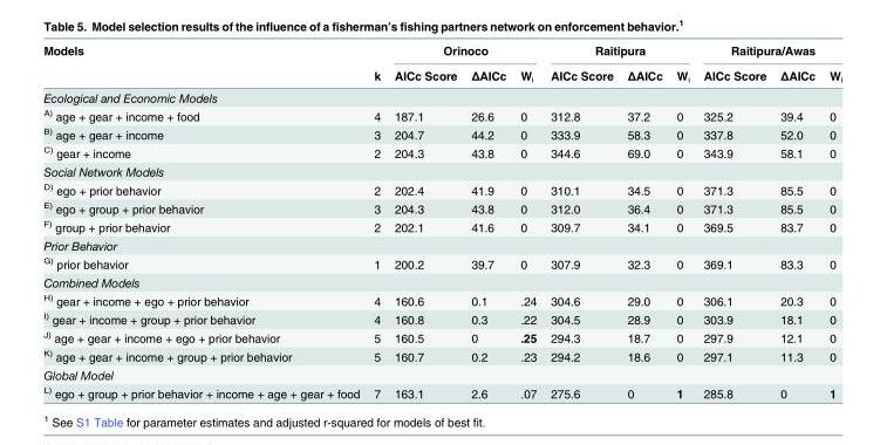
<table><thead><tr><td rowspan="2">Models</td><td rowspan="2">k</td><td colspan="3">Orinoco</td><td colspan="3">Raitipura</td><td colspan="3">Raitipura/Awas</td></tr><tr><td>AICc Score</td><td>ΔAICc</td><td>W<sub>i</sub></td><td>AICc Score</td><td>ΔAICc</td><td>W<sub>i</sub></td><td>AICc Score</td><td>ΔAICc</td><td>W<sub>i</sub></td></tr></thead><tbody><tr><td colspan="11">Ecological and Economic Models</td></tr><tr><td><sup>A)</sup> age + gear + income + food</td><td>4</td><td>187.1</td><td>26.6</td><td>0</td><td>312.8</td><td>37.2</td><td>0</td><td>325.2</td><td>39.4</td><td>0</td></tr><tr><td><sup>B)</sup> age + gear + income</td><td>3</td><td>204.7</td><td>44.2</td><td>0</td><td>333.9</td><td>58.3</td><td>0</td><td>337.8</td><td>52.0</td><td>0</td></tr><tr><td><sup>C)</sup> gear + income</td><td>2</td><td>204.3</td><td>43.8</td><td>0</td><td>344.6</td><td>69.0</td><td>0</td><td>343.9</td><td>58.1</td><td>0</td></tr><tr><td colspan="11">Social Network Models</td></tr><tr><td><sup>D)</sup> ego + prior behavior</td><td>2</td><td>202.4</td><td>41.9</td><td>0</td><td>310.1</td><td>34.5</td><td>0</td><td>371.3</td><td>85.5</td><td>0</td></tr><tr><td><sup>E)</sup> ego + group + prior behavior</td><td>3</td><td>204.3</td><td>43.8</td><td>0</td><td>312.0</td><td>36.4</td><td>0</td><td>371.3</td><td>85.5</td><td>0</td></tr><tr><td><sup>F)</sup> group + prior behavior</td><td>2</td><td>202.1</td><td>41.6</td><td>0</td><td>309.7</td><td>34.1</td><td>0</td><td>369.5</td><td>83.7</td><td>0</td></tr><tr><td colspan="11">Prior Behavior</td></tr><tr><td><sup>G)</sup> prior behavior</td><td>1</td><td>200.2</td><td>39.7</td><td>0</td><td>307.9</td><td>32.3</td><td>0</td><td>369.1</td><td>83.3</td><td>0</td></tr><tr><td colspan="11">Combined Models</td></tr><tr><td><sup>H)</sup> gear + income + ego + prior behavior</td><td>4</td><td>160.6</td><td>0.1</td><td>.24</td><td>304.6</td><td>29.0</td><td>0</td><td>306.1</td><td>20.3</td><td>0</td></tr><tr><td><sup>I)</sup> gear + income + group + prior behavior</td><td>4</td><td>160.8</td><td>0.3</td><td>.22</td><td>304.5</td><td>28.9</td><td>0</td><td>303.9</td><td>18.1</td><td>0</td></tr><tr><td><sup>J)</sup> age + gear + income + ego + prior behavior</td><td>5</td><td>160.5</td><td>0</td><td>.25</td><td>294.3</td><td>18.7</td><td>0</td><td>297.9</td><td>12.1</td><td>0</td></tr><tr><td><sup>K)</sup> age + gear + income + group + prior behavior</td><td>5</td><td>160.7</td><td>0.2</td><td>.23</td><td>294.2</td><td>18.6</td><td>0</td><td>297.1</td><td>11.3</td><td>0</td></tr><tr><td colspan="11">Global Model</td></tr><tr><td><sup>L)</sup> ego + group + prior behavior + income + age + gear + food</td><td>7</td><td>163.1</td><td>2.6</td><td>.07</td><td>275.6</td><td>0</td><td>1</td><td>285.8</td><td>0</td><td>1</td></tr></tbody></table>